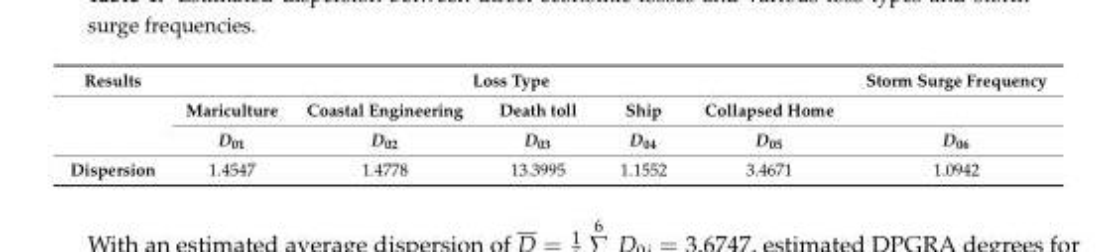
<table><thead><tr><td rowspan="3">Results</td><td colspan="5">Loss Type</td><td rowspan="3">Storm Surge Frequency D<sub>06</sub></td></tr><tr><td rowspan="2">Mariculture D<sub>01</sub></td><td rowspan="2">Coastal Engineering D<sub>02</sub></td><td rowspan="2">Death toll D<sub>03</sub></td><td rowspan="2">Ship D<sub>04</sub></td><td rowspan="2">Collapsed Home D<sub>05</sub></td></tr><tr></tr></thead><tbody><tr><td>Dispersion</td><td>1.4547</td><td>1.4778</td><td>13.3995</td><td>1.1552</td><td>3.4671</td><td>1.0942</td></tr></tbody></table>